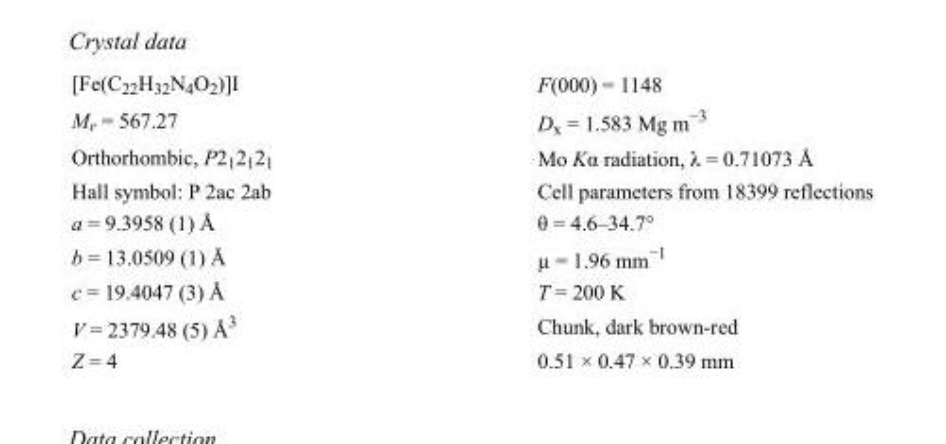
<table><tbody><tr><td>[Fe(C<sub>22</sub>H<sub>32</sub>N<sub>4</sub>O<sub>2</sub>)]I</td><td>F(000) = 1148</td></tr><tr><td>M<sub>r</sub> = 567.27</td><td>D<sub>x</sub> = 1.583 Mg m<sup>−3</sup></td></tr><tr><td>Orthorhombic, P2<sub>1</sub>2<sub>1</sub>2<sub>1</sub></td><td>Mo Kα radiation, λ = 0.71073 Å</td></tr><tr><td>Hall symbol: P 2ac 2ab</td><td>Cell parameters from 18399 reflections</td></tr><tr><td>a = 9.3958 (1) Å</td><td>θ = 4.6–34.7°</td></tr><tr><td>b = 13.0509 (1) Å</td><td>µ = 1.96 mm<sup>−1</sup></td></tr><tr><td>c = 19.4047 (3) Å</td><td>T = 200 K</td></tr><tr><td>V = 2379.48 (5) Å<sup>3</sup></td><td>Chunk, dark brown-red</td></tr><tr><td>Z = 4</td><td>0.51 × 0.47 × 0.39 mm</td></tr></tbody></table>